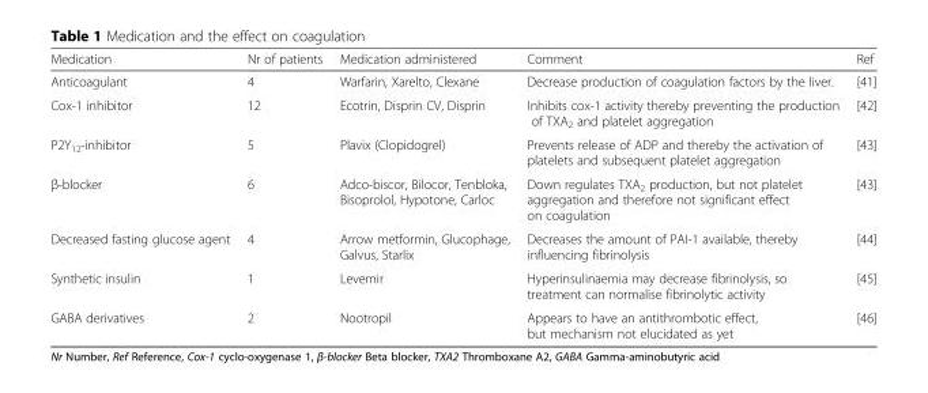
<table><thead><tr><td>Medication</td><td>Nr of patients</td><td>Medication administered</td><td>Comment</td><td>Ref</td></tr></thead><tbody><tr><td>Anticoagulant</td><td>4</td><td>Warfarin, Xarelto, Clexane</td><td>Decrease production of coagulation factors by the liver.</td><td>[41]</td></tr><tr><td>Cox-1 inhibitor</td><td>12</td><td>Ecotrin, Disprin CV, Disprin</td><td>Inhibits cox-1 activity thereby preventing the production of TXA<sub>2</sub> and platelet aggregation</td><td>[42]</td></tr><tr><td>P2Y<sub>12</sub>-inhibitor</td><td>5</td><td>Plavix (Clopidogrel)</td><td>Prevents release of ADP and thereby the activation of platelets and subsequent platelet aggregation</td><td>[43]</td></tr><tr><td>β-blocker</td><td>6</td><td>Adco-biscor, Bilocor, Tenbloka, Bisoprolol, Hypotone, Carloc</td><td>Down regulates TXA<sub>2</sub> production, but not platelet aggregation and therefore not significant effect on coagulation</td><td>[43]</td></tr><tr><td>Decreased fasting glucose agent</td><td>4</td><td>Arrow metformin, Glucophage, Galvus, Starlix</td><td>Decreases the amount of PAI-1 available, thereby influencing fibrinolysis</td><td>[44]</td></tr><tr><td>Synthetic insulin</td><td>1</td><td>Levemir</td><td>Hyperinsulinaemia may decrease fibrinolysis, so treatment can normalise fibrinolytic activity</td><td>[45]</td></tr><tr><td>GABA derivatives</td><td>2</td><td>Nootropil</td><td>Appears to have an antithrombotic effect, but mechanism not elucidated as yet</td><td>[46]</td></tr></tbody></table>